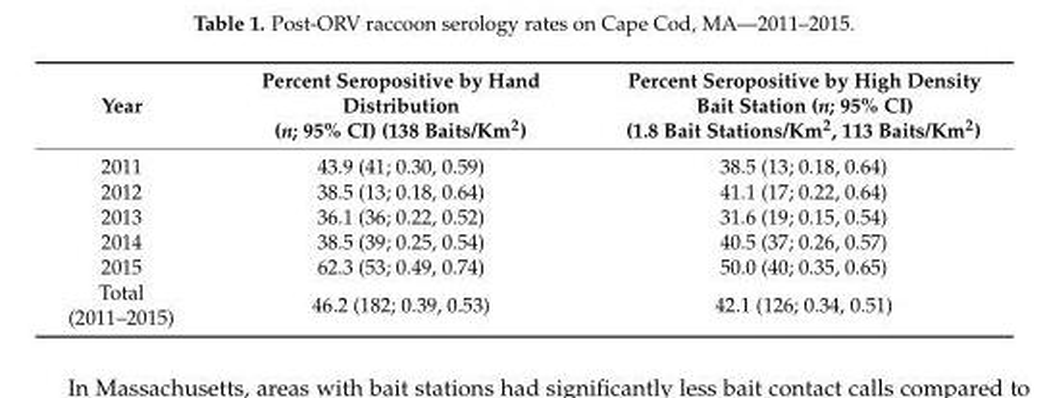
<table><thead><tr><td>Year</td><td>Percent Seropositive by Hand Distribution (n; 95% CI) (138 Baits/Km<sup>2</sup>)</td><td>Percent Seropositive by High Density Bait Station (n; 95% CI) (1.8 Bait Stations/Km<sup>2</sup>, 113 Baits/Km<sup>2</sup>)</td></tr></thead><tbody><tr><td>2011</td><td>43.9 (41; 0.30, 0.59)</td><td>38.5 (13; 0.18, 0.64)</td></tr><tr><td>2012</td><td>38.5 (13; 0.18, 0.64)</td><td>41.1 (17; 0.22, 0.64)</td></tr><tr><td>2013</td><td>36.1 (36; 0.22, 0.52)</td><td>31.6 (19; 0.15, 0.54)</td></tr><tr><td>2014</td><td>38.5 (39; 0.25, 0.54)</td><td>40.5 (37; 0.26, 0.57)</td></tr><tr><td>2015</td><td>62.3 (53; 0.49, 0.74)</td><td>50.0 (40; 0.35, 0.65)</td></tr><tr><td>Total (2011–2015)</td><td>46.2 (182; 0.39, 0.53)</td><td>42.1 (126; 0.34, 0.51)</td></tr></tbody></table>